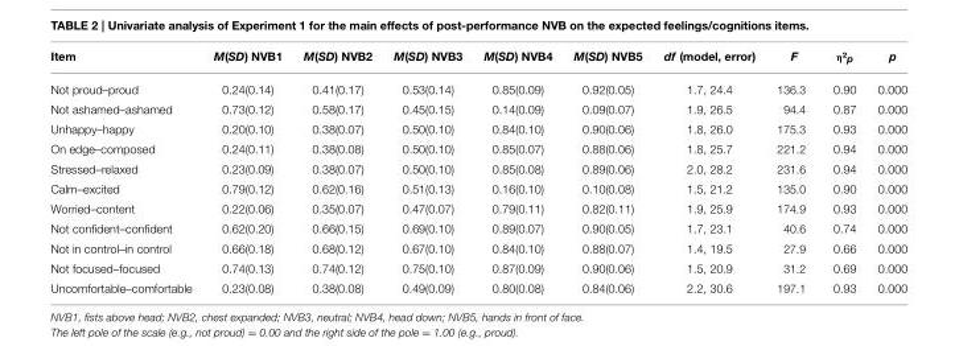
<table><thead><tr><td>Item</td><td>M(SD) NVB1</td><td>M(SD) NVB2</td><td>M(SD) NVB3</td><td>M(SD) NVB4</td><td>M(SD) NVB5</td><td>df (model, error)</td><td>F</td><td>η²p</td><td>p</td></tr></thead><tbody><tr><td>Not proud–proud</td><td>0.24(0.14)</td><td>0.41(0.17)</td><td>0.53(0.14)</td><td>0.85(0.09)</td><td>0.92(0.05)</td><td>1.7, 24.4</td><td>136.3</td><td>0.90</td><td>0.000</td></tr><tr><td>Not ashamed–ashamed</td><td>0.73(0.12)</td><td>0.58(0.17)</td><td>0.45(0.15)</td><td>0.14(0.09)</td><td>0.09(0.07)</td><td>1.9, 26.5</td><td>94.4</td><td>0.87</td><td>0.000</td></tr><tr><td>Unhappy–happy</td><td>0.20(0.10)</td><td>0.38(0.07)</td><td>0.50(0.10)</td><td>0.84(0.10)</td><td>0.90(0.06)</td><td>1.8, 26.0</td><td>175.3</td><td>0.93</td><td>0.000</td></tr><tr><td>On edge–composed</td><td>0.24(0.11)</td><td>0.38(0.08)</td><td>0.50(0.10)</td><td>0.85(0.07)</td><td>0.88(0.06)</td><td>1.8, 25.7</td><td>221.2</td><td>0.94</td><td>0.000</td></tr><tr><td>Stressed–relaxed</td><td>0.23(0.09)</td><td>0.38(0.07)</td><td>0.50(0.10)</td><td>0.85(0.08)</td><td>0.89(0.06)</td><td>2.0, 28.2</td><td>231.6</td><td>0.94</td><td>0.000</td></tr><tr><td>Calm–excited</td><td>0.79(0.12)</td><td>0.62(0.16)</td><td>0.51(0.13)</td><td>0.16(0.10)</td><td>0.10(0.08)</td><td>1.5, 21.2</td><td>135.0</td><td>0.90</td><td>0.000</td></tr><tr><td>Worried–content</td><td>0.22(0.06)</td><td>0.35(0.07)</td><td>0.47(0.07)</td><td>0.79(0.11)</td><td>0.82(0.11)</td><td>1.9, 25.9</td><td>174.9</td><td>0.93</td><td>0.000</td></tr><tr><td>Not confident–confident</td><td>0.62(0.20)</td><td>0.66(0.15)</td><td>0.69(0.10)</td><td>0.89(0.07)</td><td>0.90(0.05)</td><td>1.7, 23.1</td><td>40.6</td><td>0.74</td><td>0.000</td></tr><tr><td>Not in control–in control</td><td>0.66(0.18)</td><td>0.68(0.12)</td><td>0.67(0.10)</td><td>0.84(0.10)</td><td>0.88(0.07)</td><td>1.4, 19.5</td><td>27.9</td><td>0.66</td><td>0.000</td></tr><tr><td>Not focused–focused</td><td>0.74(0.13)</td><td>0.74(0.12)</td><td>0.75(0.10)</td><td>0.87(0.09)</td><td>0.90(0.06)</td><td>1.5, 20.9</td><td>31.2</td><td>0.69</td><td>0.000</td></tr><tr><td>Uncomfortable–comfortable</td><td>0.23(0.08)</td><td>0.38(0.08)</td><td>0.49(0.09)</td><td>0.80(0.08)</td><td>0.84(0.06)</td><td>2.2, 30.6</td><td>197.1</td><td>0.93</td><td>0.000</td></tr></tbody></table>